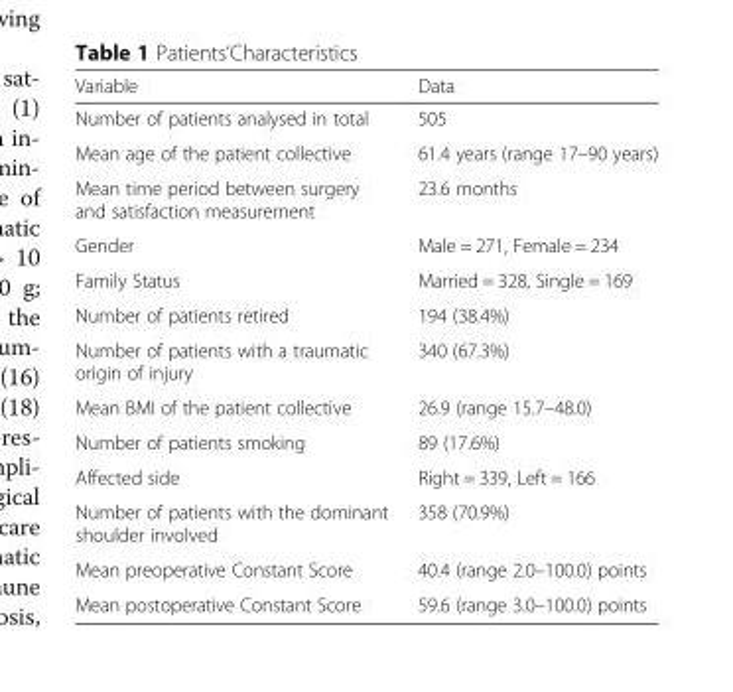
<table><thead><tr><td>Variable</td><td>Data</td></tr></thead><tbody><tr><td>Number of patients analysed in total</td><td>505</td></tr><tr><td>Mean age of the patient collective</td><td>61.4 years (range 17–90 years)</td></tr><tr><td>Mean time period between surgery and satisfaction measurement</td><td>23.6 months</td></tr><tr><td>Gender</td><td>Male = 271, Female = 234</td></tr><tr><td>Family Status</td><td>Married = 328, Single = 169</td></tr><tr><td>Number of patients retired</td><td>194 (38.4%)</td></tr><tr><td>Number of patients with a traumatic origin of injury</td><td>340 (67.3%)</td></tr><tr><td>Mean BMI of the patient collective</td><td>26.9 (range 15.7–48.0)</td></tr><tr><td>Number of patients smoking</td><td>89 (17.6%)</td></tr><tr><td>Affected side</td><td>Right = 339, Left = 166</td></tr><tr><td>Number of patients with the dominant shoulder involved</td><td>358 (70.9%)</td></tr><tr><td>Mean preoperative Constant Score</td><td>40.4 (range 2.0–100.0) points</td></tr><tr><td>Mean postoperative Constant Score</td><td>59.6 (range 3.0–100.0) points</td></tr></tbody></table>